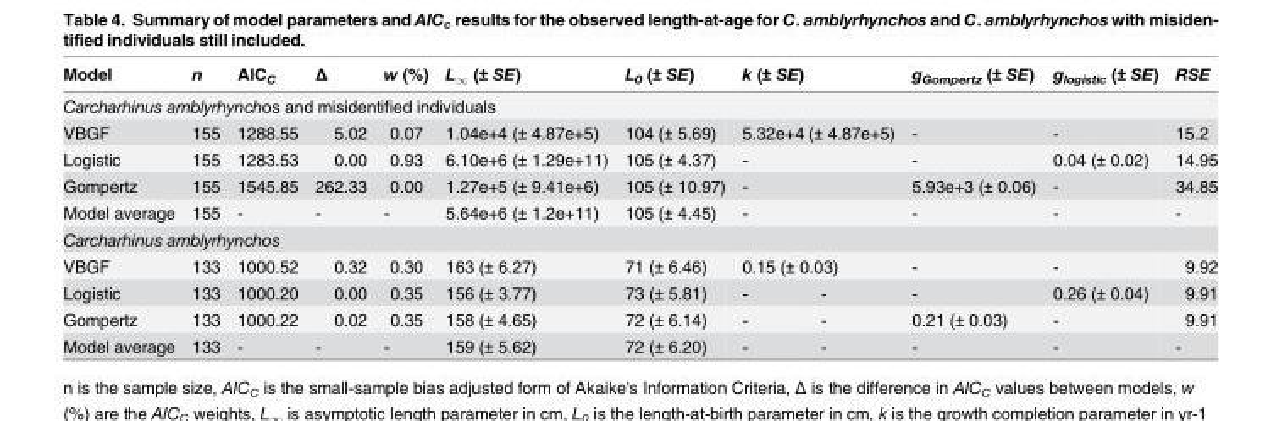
<table><thead><tr><td>Model</td><td>n</td><td>AIC<sub>C</sub></td><td>Δ</td><td>w (%)</td><td>L<sub>∞</sub> (± SE)</td><td>L<sub>0</sub> (± SE)</td><td colspan="2">k (± SE)</td><td>g<sub>Gompertz</sub> (± SE)</td><td>g<sub>logistic</sub> (± SE)</td><td>RSE</td></tr></thead><tbody><tr><td colspan="12">Carcharhinus amblyrhynchos and misidentified individuals</td></tr><tr><td>VBGF</td><td>155</td><td>1288.55</td><td>5.02</td><td>0.07</td><td>1.04e+4 (± 4.87e+5)</td><td>104 (± 5.69)</td><td colspan="2">5.32e+4 (± 4.87e+5)</td><td>-</td><td>-</td><td>15.2</td></tr><tr><td>Logistic</td><td>155</td><td>1283.53</td><td>0.00</td><td>0.93</td><td>6.10e+6 (± 1.29e+11)</td><td>105 (± 4.37)</td><td colspan="2">-</td><td>-</td><td>0.04 (± 0.02)</td><td>14.95</td></tr><tr><td>Gompertz</td><td>155</td><td>1545.85</td><td>262.33</td><td>0.00</td><td>1.27e+5 (± 9.41e+6)</td><td>105 (± 10.97)</td><td colspan="2">-</td><td>5.93e+3 (± 0.06)</td><td>-</td><td>34.85</td></tr><tr><td>Model average</td><td>155</td><td>-</td><td>-</td><td>-</td><td>5.64e+6 (± 1.2e+11)</td><td>105 (± 4.45)</td><td colspan="2">-</td><td>-</td><td>-</td><td>-</td></tr><tr><td colspan="12">Carcharhinus amblyrhynchos</td></tr><tr><td>VBGF</td><td>133</td><td>1000.52</td><td>0.32</td><td>0.30</td><td>163 (± 6.27)</td><td>71 (± 6.46)</td><td colspan="2">0.15 (± 0.03)</td><td>-</td><td>-</td><td>9.92</td></tr><tr><td>Logistic</td><td>133</td><td>1000.20</td><td>0.00</td><td>0.35</td><td>156 (± 3.77)</td><td>73 (± 5.81)</td><td>-</td><td>-</td><td>-</td><td>0.26 (± 0.04)</td><td>9.91</td></tr><tr><td>Gompertz</td><td>133</td><td>1000.22</td><td>0.02</td><td>0.35</td><td>158 (± 4.65)</td><td>72 (± 6.14)</td><td>-</td><td>-</td><td>0.21 (± 0.03)</td><td>-</td><td>9.91</td></tr><tr><td>Model average</td><td>133</td><td>-</td><td>-</td><td>-</td><td>159 (± 5.62)</td><td>72 (± 6.20)</td><td>-</td><td>-</td><td>-</td><td>-</td><td>-</td></tr></tbody></table>